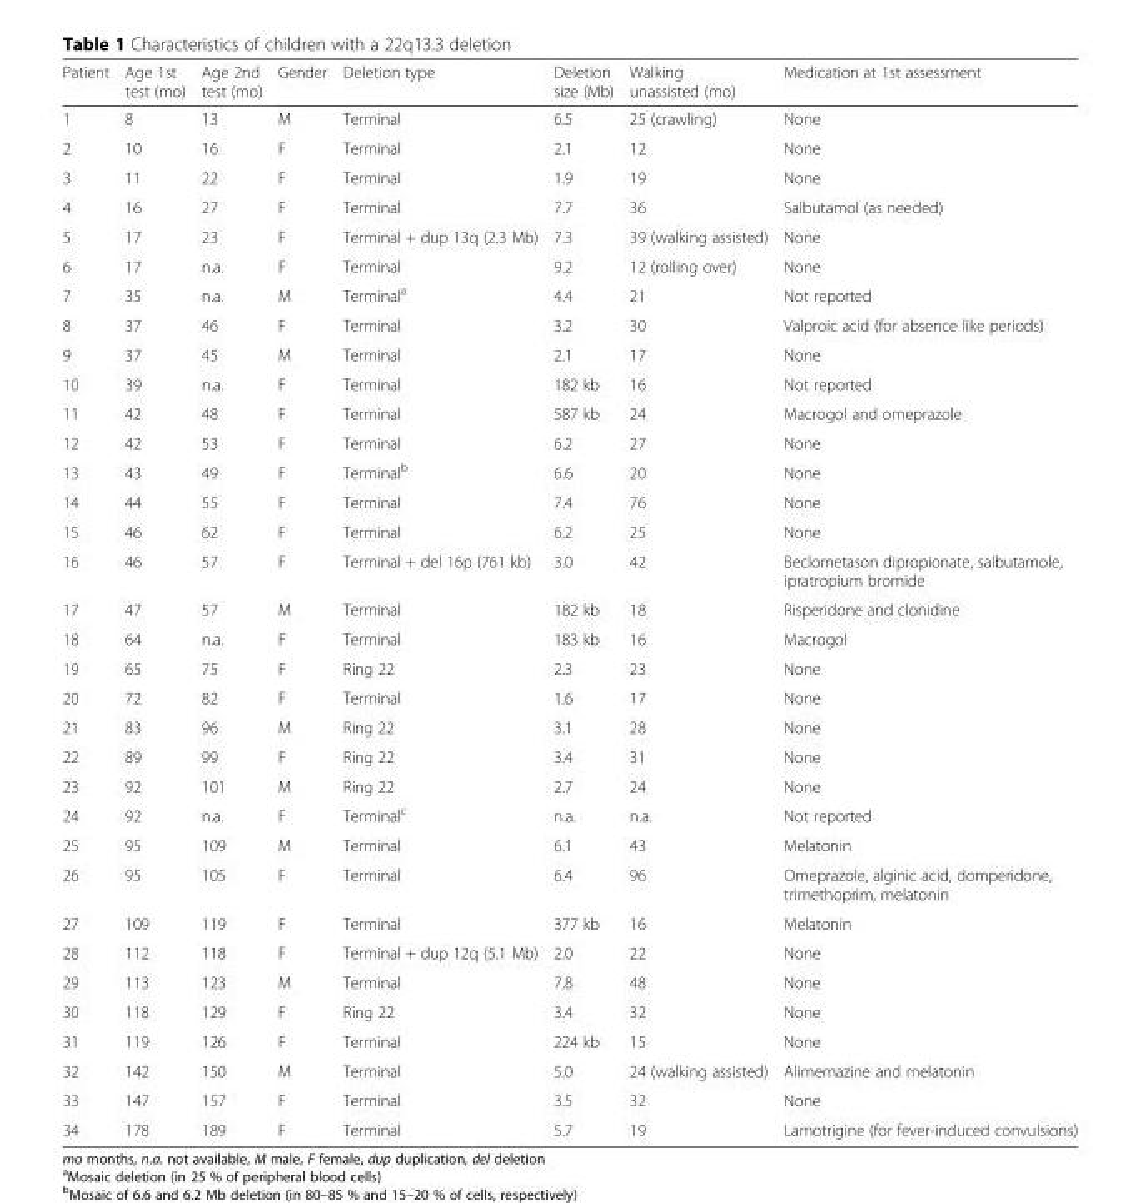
<table><thead><tr><td>Patient</td><td>Age 1st test (mo)</td><td>Age 2nd test (mo)</td><td>Gender</td><td>Deletion type</td><td>Deletion size (Mb)</td><td>Walking unassisted (mo)</td><td>Medication at 1st assessment</td></tr></thead><tbody><tr><td>1</td><td>8</td><td>13</td><td>M</td><td>Terminal</td><td>6.5</td><td>25 (crawling)</td><td>None</td></tr><tr><td>2</td><td>10</td><td>16</td><td>F</td><td>Terminal</td><td>2.1</td><td>12</td><td>None</td></tr><tr><td>3</td><td>11</td><td>22</td><td>F</td><td>Terminal</td><td>1.9</td><td>19</td><td>None</td></tr><tr><td>4</td><td>16</td><td>27</td><td>F</td><td>Terminal</td><td>7.7</td><td>36</td><td>Salbutamol (as needed)</td></tr><tr><td>5</td><td>17</td><td>23</td><td>F</td><td>Terminal + dup 13q (2.3 Mb)</td><td>7.3</td><td>39 (walking assisted)</td><td>None</td></tr><tr><td>6</td><td>17</td><td>n.a.</td><td>F</td><td>Terminal</td><td>9.2</td><td>12 (rolling over)</td><td>None</td></tr><tr><td>7</td><td>35</td><td>n.a.</td><td>M</td><td>Terminal<sup>a</sup></td><td>4.4</td><td>21</td><td>Not reported</td></tr><tr><td>8</td><td>37</td><td>46</td><td>F</td><td>Terminal</td><td>3.2</td><td>30</td><td>Valproic acid (for absence like periods)</td></tr><tr><td>9</td><td>37</td><td>45</td><td>M</td><td>Terminal</td><td>2.1</td><td>17</td><td>None</td></tr><tr><td>10</td><td>39</td><td>n.a.</td><td>F</td><td>Terminal</td><td>182 kb</td><td>16</td><td>Not reported</td></tr><tr><td>11</td><td>42</td><td>48</td><td>F</td><td>Terminal</td><td>587 kb</td><td>24</td><td>Macrogol and omeprazole</td></tr><tr><td>12</td><td>42</td><td>53</td><td>F</td><td>Terminal</td><td>6.2</td><td>27</td><td>None</td></tr><tr><td>13</td><td>43</td><td>49</td><td>F</td><td>Terminal<sup>b</sup></td><td>6.6</td><td>20</td><td>None</td></tr><tr><td>14</td><td>44</td><td>55</td><td>F</td><td>Terminal</td><td>7.4</td><td>76</td><td>None</td></tr><tr><td>15</td><td>46</td><td>62</td><td>F</td><td>Terminal</td><td>6.2</td><td>25</td><td>None</td></tr><tr><td>16</td><td>46</td><td>57</td><td>F</td><td>Terminal + del 16p (761 kb)</td><td>3.0</td><td>42</td><td>Beclometason dipropionate, salbutamole, ipratropium bromide</td></tr><tr><td>17</td><td>47</td><td>57</td><td>M</td><td>Terminal</td><td>182 kb</td><td>18</td><td>Risperidone and clonidine</td></tr><tr><td>18</td><td>64</td><td>n.a.</td><td>F</td><td>Terminal</td><td>183 kb</td><td>16</td><td>Macrogol</td></tr><tr><td>19</td><td>65</td><td>75</td><td>F</td><td>Ring 22</td><td>2.3</td><td>23</td><td>None</td></tr><tr><td>20</td><td>72</td><td>82</td><td>F</td><td>Terminal</td><td>1.6</td><td>17</td><td>None</td></tr><tr><td>21</td><td>83</td><td>96</td><td>M</td><td>Ring 22</td><td>3.1</td><td>28</td><td>None</td></tr><tr><td>22</td><td>89</td><td>99</td><td>F</td><td>Ring 22</td><td>3.4</td><td>31</td><td>None</td></tr><tr><td>23</td><td>92</td><td>101</td><td>M</td><td>Ring 22</td><td>2.7</td><td>24</td><td>None</td></tr><tr><td>24</td><td>92</td><td>n.a.</td><td>F</td><td>Terminal<sup>c</sup></td><td>n.a.</td><td>n.a.</td><td>Not reported</td></tr><tr><td>25</td><td>95</td><td>109</td><td>M</td><td>Terminal</td><td>6.1</td><td>43</td><td>Melatonin</td></tr><tr><td>26</td><td>95</td><td>105</td><td>F</td><td>Terminal</td><td>6.4</td><td>96</td><td>Omeprazole, alginic acid, domperidone, trimethoprim, melatonin</td></tr><tr><td>27</td><td>109</td><td>119</td><td>F</td><td>Terminal</td><td>377 kb</td><td>16</td><td>Melatonin</td></tr><tr><td>28</td><td>112</td><td>118</td><td>F</td><td>Terminal + dup 12q (5.1 Mb)</td><td>2.0</td><td>22</td><td>None</td></tr><tr><td>29</td><td>113</td><td>123</td><td>M</td><td>Terminal</td><td>7.8</td><td>48</td><td>None</td></tr><tr><td>30</td><td>118</td><td>129</td><td>F</td><td>Ring 22</td><td>3.4</td><td>32</td><td>None</td></tr><tr><td>31</td><td>119</td><td>126</td><td>F</td><td>Terminal</td><td>224 kb</td><td>15</td><td>None</td></tr><tr><td>32</td><td>142</td><td>150</td><td>M</td><td>Terminal</td><td>5.0</td><td>24 (walking assisted)</td><td>Alimemazine and melatonin</td></tr><tr><td>33</td><td>147</td><td>157</td><td>F</td><td>Terminal</td><td>3.5</td><td>32</td><td>None</td></tr><tr><td>34</td><td>178</td><td>189</td><td>F</td><td>Terminal</td><td>5.7</td><td>19</td><td>Lamotrigine (for fever-induced convulsions)</td></tr></tbody></table>